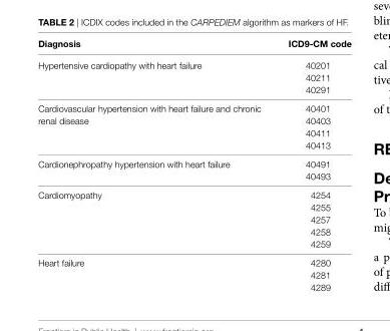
<table><thead><tr><td>Diagnosis</td><td>icD9-cM code</td></tr></thead><tbody><tr><td rowspan="3">Hypertensive cardiopathy with heart failure</td><td>40201</td></tr><tr><td>40211</td></tr><tr><td>40291</td></tr><tr><td rowspan="4">Cardiovascular hypertension with heart failure and chronic renal disease</td><td>40401</td></tr><tr><td>40403</td></tr><tr><td>40411</td></tr><tr><td>40413</td></tr><tr><td rowspan="2">Cardionephropathy hypertension with heart failure</td><td>40491</td></tr><tr><td>40493</td></tr><tr><td rowspan="5">Cardiomyopathy</td><td>4254</td></tr><tr><td>4255</td></tr><tr><td>4257</td></tr><tr><td>4258</td></tr><tr><td>4259</td></tr><tr><td rowspan="3">Heart failure</td><td>4280</td></tr><tr><td>4281</td></tr><tr><td>4289</td></tr></tbody></table>